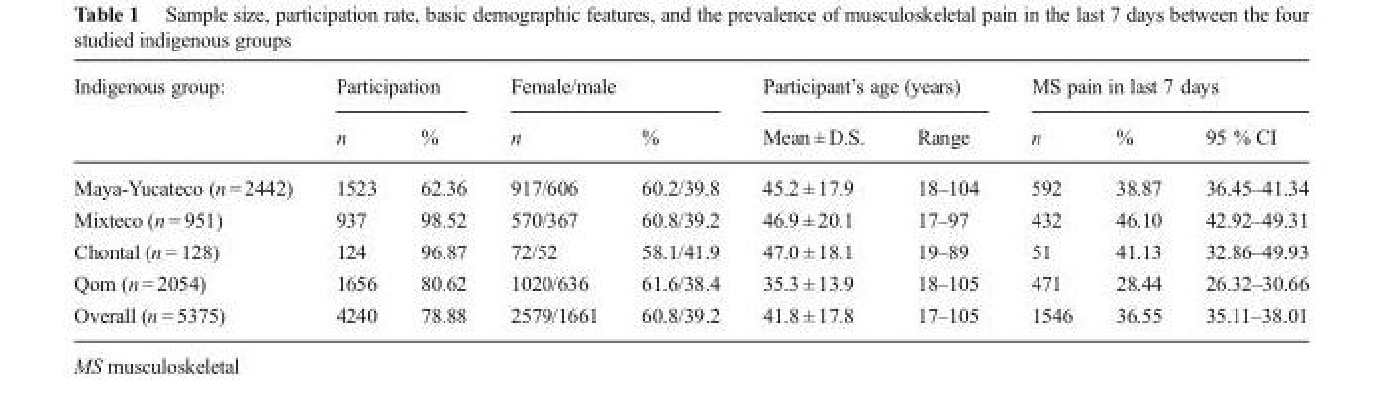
<table><thead><tr><td rowspan="2">Indigenous group:</td><td colspan="2">Participation</td><td colspan="2">Female/male</td><td colspan="2">Participant’s age (years)</td><td colspan="3">MS pain in last 7 days</td></tr><tr><td>n</td><td>%</td><td>n</td><td>%</td><td>Mean ± D.S.</td><td>Range</td><td>n</td><td>%</td><td>95 % CI</td></tr></thead><tbody><tr><td>Maya-Yucateco (n = 2442)</td><td>1523</td><td>62.36</td><td>917/606</td><td>60.2/39.8</td><td>45.2 ± 17.9</td><td>18–104</td><td>592</td><td>38.87</td><td>36.45–41.34</td></tr><tr><td>Mixteco (n = 951)</td><td>937</td><td>98.52</td><td>570/367</td><td>60.8/39.2</td><td>46.9 ± 20.1</td><td>17–97</td><td>432</td><td>46.10</td><td>42.92–49.31</td></tr><tr><td>Chontal (n = 128)</td><td>124</td><td>96.87</td><td>72/52</td><td>58.1/41.9</td><td>47.0 ± 18.1</td><td>19–89</td><td>51</td><td>41.13</td><td>32.86–49.93</td></tr><tr><td>Qom (n = 2054)</td><td>1656</td><td>80.62</td><td>1020/636</td><td>61.6/38.4</td><td>35.3 ± 13.9</td><td>18–105</td><td>471</td><td>28.44</td><td>26.32–30.66</td></tr><tr><td>Overall (n = 5375)</td><td>4240</td><td>78.88</td><td>2579/1661</td><td>60.8/39.2</td><td>41.8 ± 17.8</td><td>17–105</td><td>1546</td><td>36.55</td><td>35.11–38.01</td></tr></tbody></table>